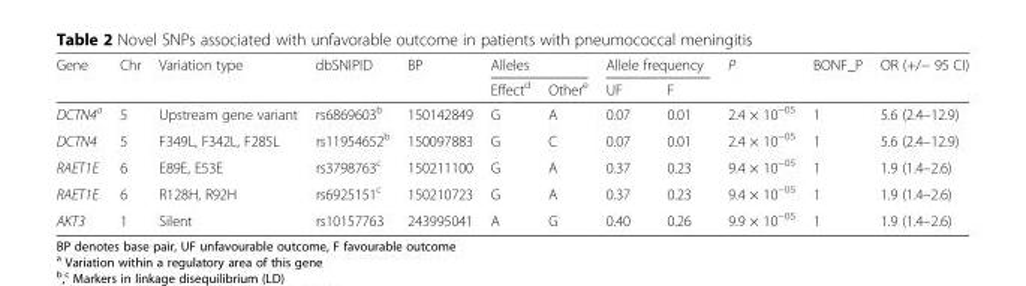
<table><thead><tr><td rowspan="2">Gene</td><td rowspan="2">Chr</td><td rowspan="2">Variation type</td><td rowspan="2">dbSNIPID</td><td rowspan="2">BP</td><td colspan="2">Alleles</td><td colspan="2">Allele frequency</td><td rowspan="2">P</td><td rowspan="2">BONF_P</td><td rowspan="2">OR (+/− 95 CI)</td></tr><tr><td>Effect<sup>d</sup></td><td>Other<sup>e</sup></td><td>UF</td><td>F</td></tr></thead><tbody><tr><td>DCTN4<sup>a</sup></td><td>5</td><td>Upstream gene variant</td><td>rs6869603<sup>b</sup></td><td>150142849</td><td>G</td><td>A</td><td>0.07</td><td>0.01</td><td>2.4 × 10<sup>−05</sup></td><td>1</td><td>5.6 (2.4–12.9)</td></tr><tr><td>DCTN4</td><td>5</td><td>F349L, F342L, F285L</td><td>rs11954652<sup>b</sup></td><td>150097883</td><td>G</td><td>C</td><td>0.07</td><td>0.01</td><td>2.4 × 10<sup>−05</sup></td><td>1</td><td>5.6 (2.4–12.9)</td></tr><tr><td>RAET1E</td><td>6</td><td>E89E, E53E</td><td>rs3798763<sup>c</sup></td><td>150211100</td><td>G</td><td>A</td><td>0.37</td><td>0.23</td><td>9.4 × 10<sup>−05</sup></td><td>1</td><td>1.9 (1.4–2.6)</td></tr><tr><td>RAET1E</td><td>6</td><td>R128H, R92H</td><td>rs6925151<sup>c</sup></td><td>150210723</td><td>G</td><td>A</td><td>0.37</td><td>0.23</td><td>9.4 × 10<sup>−05</sup></td><td>1</td><td>1.9 (1.4–2.6)</td></tr><tr><td>AKT3</td><td>1</td><td>Silent</td><td>rs10157763</td><td>243995041</td><td>A</td><td>G</td><td>0.40</td><td>0.26</td><td>9.9 × 10<sup>−05</sup></td><td>1</td><td>1.9 (1.4–2.6)</td></tr></tbody></table>